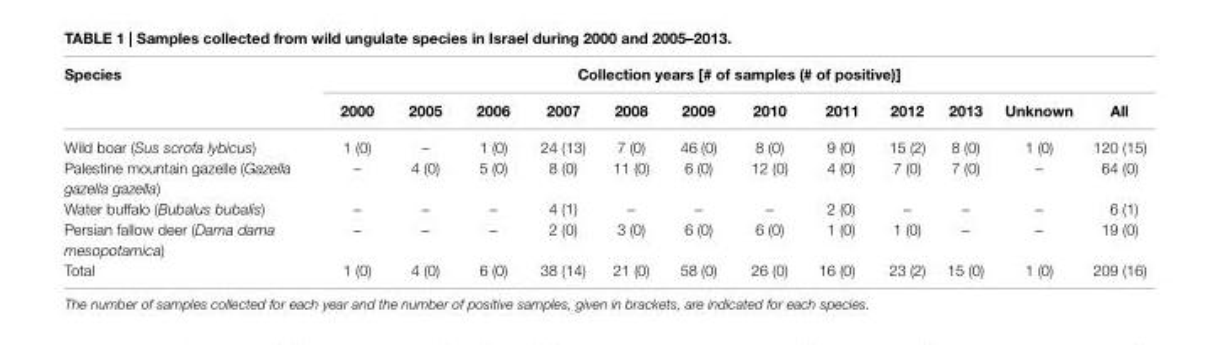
<table><thead><tr><td rowspan="2">species</td><td colspan="12">collection years [# of samples (# of positive)]</td></tr><tr><td>2000</td><td>2005</td><td>2006</td><td>2007</td><td>2008</td><td>2009</td><td>2010</td><td>2011</td><td>2012</td><td>2013</td><td>Unknown</td><td>all</td></tr></thead><tbody><tr><td>Wild boar (Sus scrofa lybicus)</td><td>1 (0)</td><td>–</td><td>1 (0)</td><td>24 (13)</td><td>7 (0)</td><td>46 (0)</td><td>8 (0)</td><td>9 (0)</td><td>15 (2)</td><td>8 (0)</td><td>1 (0)</td><td>120 (15)</td></tr><tr><td>Palestine mountain gazelle (Gazella gazella gazella)</td><td>–</td><td>4 (0)</td><td>5 (0)</td><td>8 (0)</td><td>11 (0)</td><td>6 (0)</td><td>12 (0)</td><td>4 (0)</td><td>7 (0)</td><td>7 (0)</td><td>–</td><td>64 (0)</td></tr><tr><td>Water buffalo (Bubalus bubalis)</td><td>–</td><td>–</td><td>–</td><td>4 (1)</td><td>–</td><td>–</td><td>–</td><td>2 (0)</td><td>–</td><td>–</td><td>–</td><td>6 (1)</td></tr><tr><td>Persian fallow deer (Dama dama mesopotamica)</td><td>–</td><td>–</td><td>–</td><td>2 (0)</td><td>3 (0)</td><td>6 (0)</td><td>6 (0)</td><td>1 (0)</td><td>1 (0)</td><td>–</td><td>–</td><td>19 (0)</td></tr><tr><td>Total</td><td>1 (0)</td><td>4 (0)</td><td>6 (0)</td><td>38 (14)</td><td>21 (0)</td><td>58 (0)</td><td>26 (0)</td><td>16 (0)</td><td>23 (2)</td><td>15 (0)</td><td>1 (0)</td><td>209 (16)</td></tr></tbody></table>